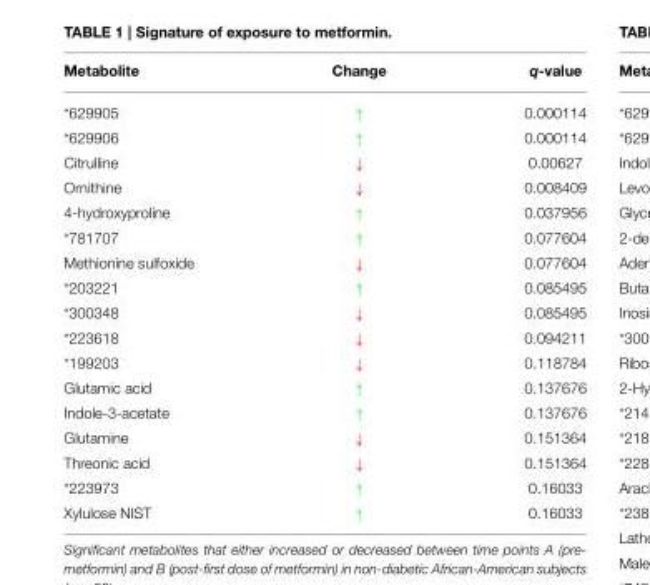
<table><thead><tr><td>Metabolite</td><td>Change</td><td>q-value</td></tr></thead><tbody><tr><td>*629905</td><td>↑</td><td>0.000114</td></tr><tr><td>*629906</td><td>↑</td><td>0.000114</td></tr><tr><td>Citrulline</td><td>↓</td><td>0.00627</td></tr><tr><td>Ornithine</td><td>↓</td><td>0.008409</td></tr><tr><td>4-hydroxyproline</td><td>↑</td><td>0.037956</td></tr><tr><td>*781707</td><td>↑</td><td>0.077604</td></tr><tr><td>Methionine sulfoxide</td><td>↓</td><td>0.077604</td></tr><tr><td>*203221</td><td>↑</td><td>0.085495</td></tr><tr><td>*300348</td><td>↓</td><td>0.085495</td></tr><tr><td>*223618</td><td>↓</td><td>0.094211</td></tr><tr><td>*199203</td><td>↓</td><td>0.118784</td></tr><tr><td>Glutamic acid</td><td>↑</td><td>0.137676</td></tr><tr><td>Indole-3-acetate</td><td>↑</td><td>0.137676</td></tr><tr><td>Glutamine</td><td>↓</td><td>0.151364</td></tr><tr><td>Threonic acid</td><td>↓</td><td>0.151364</td></tr><tr><td>*223973</td><td>↑</td><td>0.16033</td></tr><tr><td>Xylulose NIST</td><td>↑</td><td>0.16033</td></tr></tbody></table>